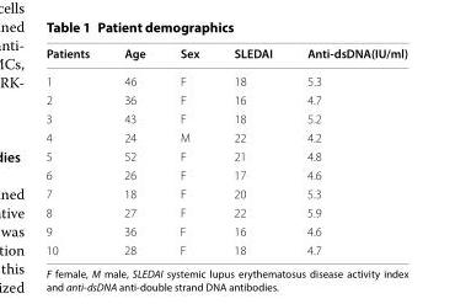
<table><thead><tr><td>Patients</td><td>Age</td><td>Sex</td><td>SLEDAI</td><td>Anti‑dsDNA(IU/ml)</td></tr></thead><tbody><tr><td>1</td><td>46</td><td>F</td><td>18</td><td>5.3</td></tr><tr><td>2</td><td>36</td><td>F</td><td>16</td><td>4.7</td></tr><tr><td>3</td><td>43</td><td>F</td><td>18</td><td>5.2</td></tr><tr><td>4</td><td>24</td><td>M</td><td>22</td><td>4.2</td></tr><tr><td>5</td><td>52</td><td>F</td><td>21</td><td>4.8</td></tr><tr><td>6</td><td>26</td><td>F</td><td>17</td><td>4.6</td></tr><tr><td>7</td><td>18</td><td>F</td><td>20</td><td>5.3</td></tr><tr><td>8</td><td>27</td><td>F</td><td>22</td><td>5.9</td></tr><tr><td>9</td><td>36</td><td>F</td><td>16</td><td>4.6</td></tr><tr><td>10</td><td>28</td><td>F</td><td>18</td><td>4.7</td></tr></tbody></table>